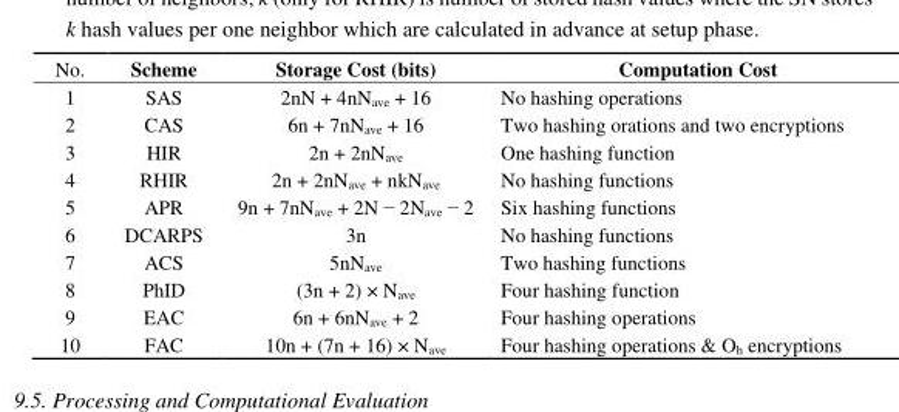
<table><thead><tr><td>No.</td><td>Scheme</td><td>Storage Cost (bits)</td><td>Computation Cost</td></tr></thead><tbody><tr><td>1</td><td>SAS</td><td>2nN + 4nN<sub>ave</sub> + 16</td><td>No hashing operations</td></tr><tr><td>2</td><td>CAS</td><td>6n + 7nN<sub>ave</sub> + 16</td><td>Two hashing orations and two encryptions</td></tr><tr><td>3</td><td>HIR</td><td>2n + 2nN<sub>ave</sub></td><td>One hashing function</td></tr><tr><td>4</td><td>RHIR</td><td>2n + 2nN<sub>ave</sub> + nkN<sub>ave</sub></td><td>No hashing functions</td></tr><tr><td>5</td><td>APR</td><td>9n + 7nN<sub>ave</sub> + 2N − 2N<sub>ave</sub> − 2</td><td>Six hashing functions</td></tr><tr><td>6</td><td>DCARPS</td><td>3n</td><td>No hashing functions</td></tr><tr><td>7</td><td>ACS</td><td>5nN<sub>ave</sub></td><td>Two hashing functions</td></tr><tr><td>8</td><td>PhID</td><td>(3n + 2) × N<sub>ave</sub></td><td>Four hashing function</td></tr><tr><td>9</td><td>EAC</td><td>6n + 6nN<sub>ave</sub> + 2</td><td>Four hashing operations</td></tr><tr><td>10</td><td>FAC</td><td>10n + (7n + 16) × N<sub>ave</sub></td><td>Four hashing operations &amp; O<sub>h</sub> encryptions</td></tr></tbody></table>